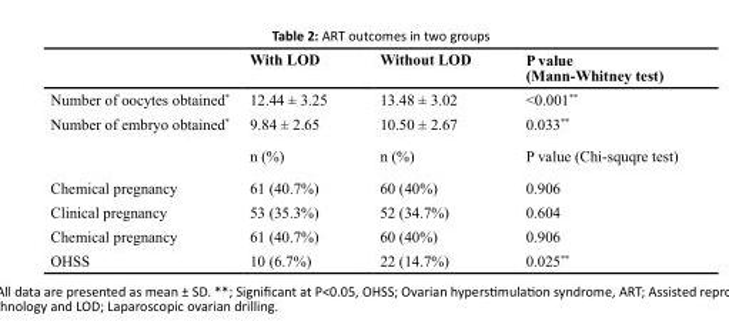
<table><thead><tr><td></td><td>With LOD</td><td>Without LOD</td><td>P value (Mann-Whitney test)</td></tr></thead><tbody><tr><td>Number of oocytes obtained*</td><td>12.44 ± 3.25</td><td>13.48 ± 3.02</td><td>&lt;0.001**</td></tr><tr><td rowspan="2">Number of embryo obtained*</td><td>9.84 ± 2.65</td><td>10.50 ± 2.67</td><td>0.033**</td></tr><tr><td>n (%)</td><td>n (%)</td><td>P value (Chi-squqre test)</td></tr><tr><td>Chemical pregnancy</td><td>61 (40.7%)</td><td>60 (40%)</td><td>0.906</td></tr><tr><td>Clinical pregnancy</td><td>53 (35.3%)</td><td>52 (34.7%)</td><td>0.604</td></tr><tr><td>Chemical pregnancy</td><td>61 (40.7%)</td><td>60 (40%)</td><td>0.906</td></tr><tr><td>OHSS</td><td>10 (6.7%)</td><td>22 (14.7%)</td><td>0.025**</td></tr></tbody></table>